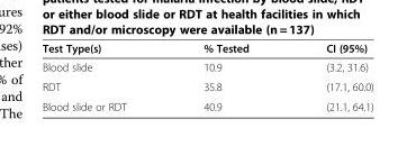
<table><thead><tr><td>Test Type(s)</td><td>% Tested</td><td>CI (95%)</td></tr></thead><tbody><tr><td>Blood slide</td><td>10.9</td><td>(3.2, 31.6)</td></tr><tr><td>RDT</td><td>35.8</td><td>(17.1, 60.0)</td></tr><tr><td>Blood slide or RDT</td><td>40.9</td><td>(21.1, 64.1)</td></tr></tbody></table>